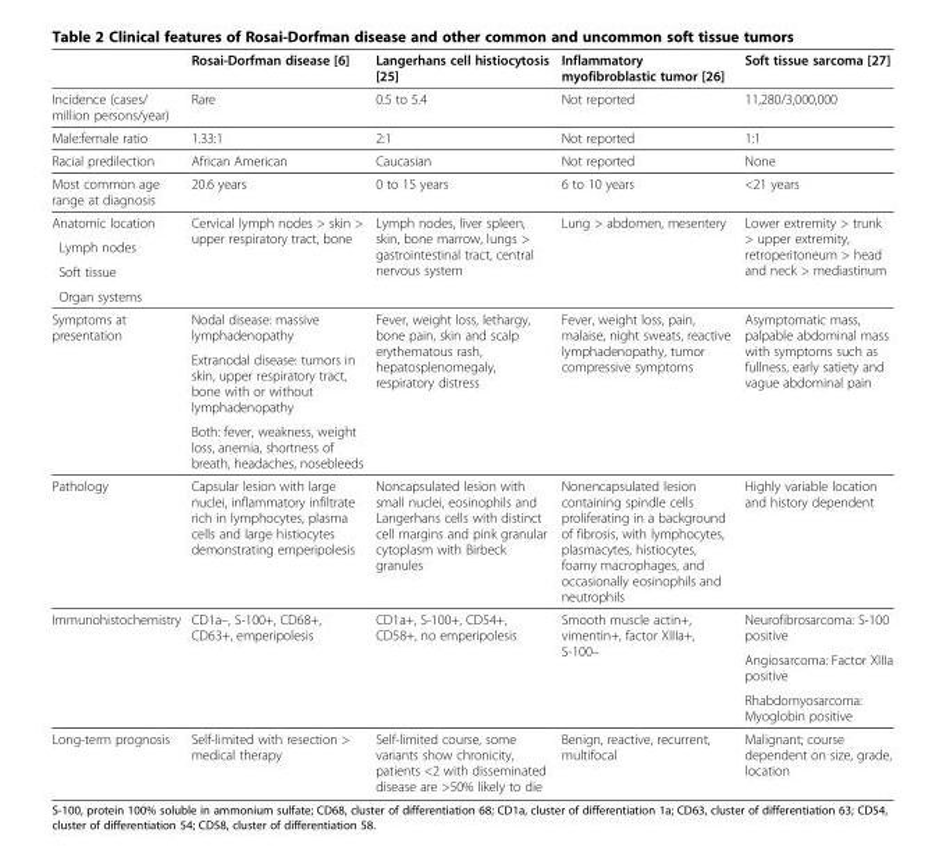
<table><thead><tr><td></td><td>Rosai-Dorfman disease [6]</td><td>Langerhans cell histiocytosis [25]</td><td>Inflammatory myofibroblastic tumor [26]</td><td>Soft tissue sarcoma [27]</td></tr></thead><tbody><tr><td>Incidence (cases/ million persons/year)</td><td>Rare</td><td>0.5 to 5.4</td><td>Not reported</td><td>11,280/3,000,000</td></tr><tr><td>Male:female ratio</td><td>1.33:1</td><td>2:1</td><td>Not reported</td><td>1:1</td></tr><tr><td>Racial predilection</td><td>African American</td><td>Caucasian</td><td>Not reported</td><td>None</td></tr><tr><td>Most common age range at diagnosis</td><td>20.6 years</td><td>0 to 15 years</td><td>6 to 10 years</td><td>&lt;21 years</td></tr><tr><td>Anatomic location</td><td rowspan="4">Cervical lymph nodes &gt; skin &gt; upper respiratory tract, bone</td><td rowspan="4">Lymph nodes, liver spleen, skin, bone marrow, lungs &gt; gastrointestinal tract, central nervous system</td><td rowspan="4">Lung &gt; abdomen, mesentery</td><td rowspan="4">Lower extremity &gt; trunk &gt; upper extremity, retroperitoneum &gt; head and neck &gt; mediastinum</td></tr><tr><td>Lymph nodes</td></tr><tr><td>Soft tissue</td></tr><tr><td>Organ systems</td></tr><tr><td rowspan="3">Symptoms at presentation</td><td>Nodal disease: massive lymphadenopathy</td><td rowspan="3">Fever, weight loss, lethargy, bone pain, skin and scalp erythematous rash, hepatosplenomegaly, respiratory distress</td><td rowspan="3">Fever, weight loss, pain, malaise, night sweats, reactive lymphadenopathy, tumor compressive symptoms</td><td rowspan="3">Asymptomatic mass, palpable abdominal mass with symptoms such as fullness, early satiety and vague abdominal pain</td></tr><tr><td>Extranodal disease: tumors in skin, upper respiratory tract, bone with or without lymphadenopathy</td></tr><tr><td>Both: fever, weakness, weight loss, anemia, shortness of breath, headaches, nosebleeds</td></tr><tr><td>Pathology</td><td>Capsular lesion with large nuclei, inflammatory infiltrate rich in lymphocytes, plasma cells and large histiocytes demonstrating emperipolesis</td><td>Noncapsulated lesion with small nuclei, eosinophils and Langerhans cells with distinct cell margins and pink granular cytoplasm with Birbeck granules</td><td>Nonencapsulated lesion containing spindle cells proliferating in a background of fibrosis, with lymphocytes, plasmacytes, histiocytes, foamy macrophages, and occasionally eosinophils and neutrophils</td><td>Highly variable location and history dependent</td></tr><tr><td rowspan="3">Immunohistochemistry</td><td rowspan="3">CD1a–, S-100+, CD68+, CD63+, emperipolesis</td><td rowspan="3">CD1a+, S-100+, CD54+, CD58+, no emperipolesis</td><td rowspan="3">Smooth muscle actin+, vimentin+, factor XIIIa+, S-100–</td><td>Neurofibrosarcoma: S-100 positive</td></tr><tr><td>Angiosarcoma: Factor XIIIa positive</td></tr><tr><td>Rhabdomyosarcoma: Myoglobin positive</td></tr><tr><td>Long-term prognosis</td><td>Self-limited with resection &gt; medical therapy</td><td>Self-limited course, some variants show chronicity, patients &lt;2 with disseminated disease are &gt;50% likely to die</td><td>Benign, reactive, recurrent, multifocal</td><td>Malignant; course dependent on size, grade, location</td></tr></tbody></table>